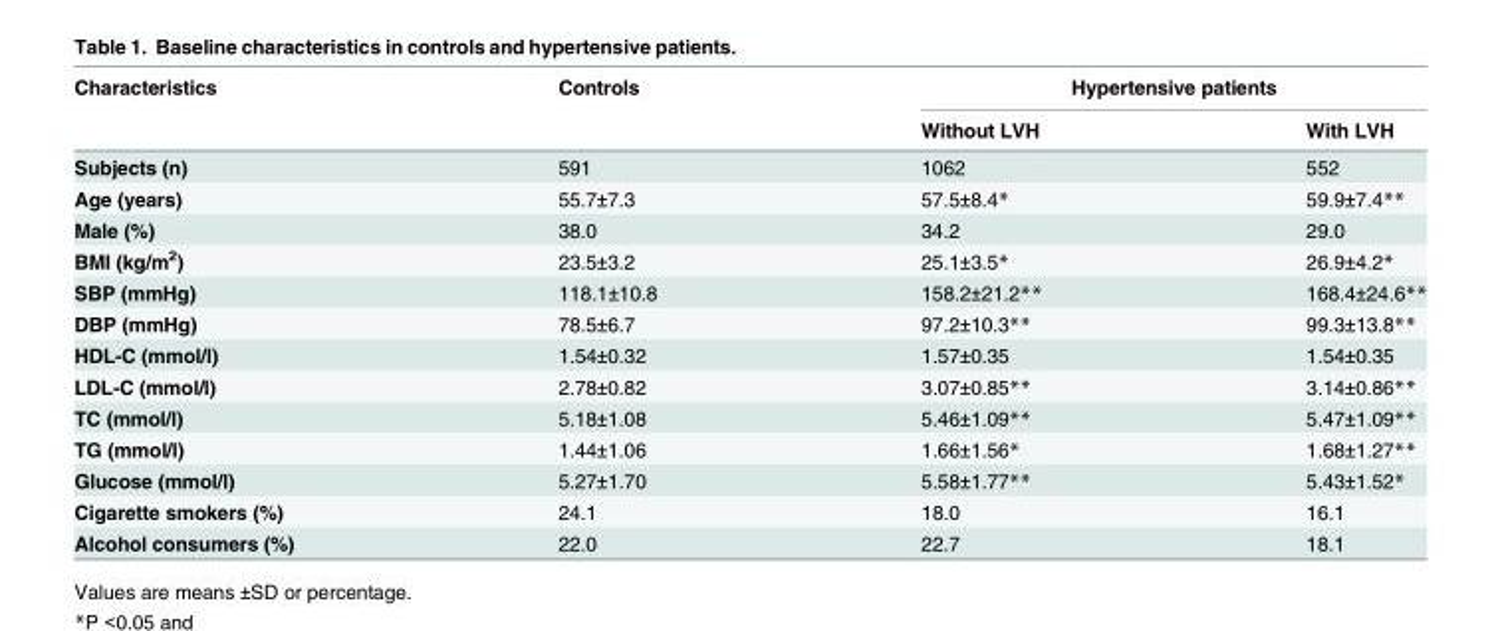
<table><thead><tr><td rowspan="2">Characteristics</td><td rowspan="2">Controls</td><td colspan="2">Hypertensive patients</td></tr><tr><td>Without LVH</td><td>With LVH</td></tr></thead><tbody><tr><td>Subjects (n)</td><td>591</td><td>1062</td><td>552</td></tr><tr><td>Age (years)</td><td>55.7±7.3</td><td>57.5±8.4*</td><td>59.9±7.4**</td></tr><tr><td>Male (%)</td><td>38.0</td><td>34.2</td><td>29.0</td></tr><tr><td>BMI (kg/m<sup>2</sup>)</td><td>23.5±3.2</td><td>25.1±3.5*</td><td>26.9±4.2*</td></tr><tr><td>SBP (mmHg)</td><td>118.1±10.8</td><td>158.2±21.2**</td><td>168.4±24.6**</td></tr><tr><td>DBP (mmHg)</td><td>78.5±6.7</td><td>97.2±10.3**</td><td>99.3±13.8**</td></tr><tr><td>HDL-C (mmol/l)</td><td>1.54±0.32</td><td>1.57±0.35</td><td>1.54±0.35</td></tr><tr><td>LDL-C (mmol/l)</td><td>2.78±0.82</td><td>3.07±0.85**</td><td>3.14±0.86**</td></tr><tr><td>TC (mmol/l)</td><td>5.18±1.08</td><td>5.46±1.09**</td><td>5.47±1.09**</td></tr><tr><td>TG (mmol/l)</td><td>1.44±1.06</td><td>1.66±1.56*</td><td>1.68±1.27**</td></tr><tr><td>Glucose (mmol/l)</td><td>5.27±1.70</td><td>5.58±1.77**</td><td>5.43±1.52*</td></tr><tr><td>Cigarette smokers (%)</td><td>24.1</td><td>18.0</td><td>16.1</td></tr><tr><td>Alcohol consumers (%)</td><td>22.0</td><td>22.7</td><td>18.1</td></tr></tbody></table>